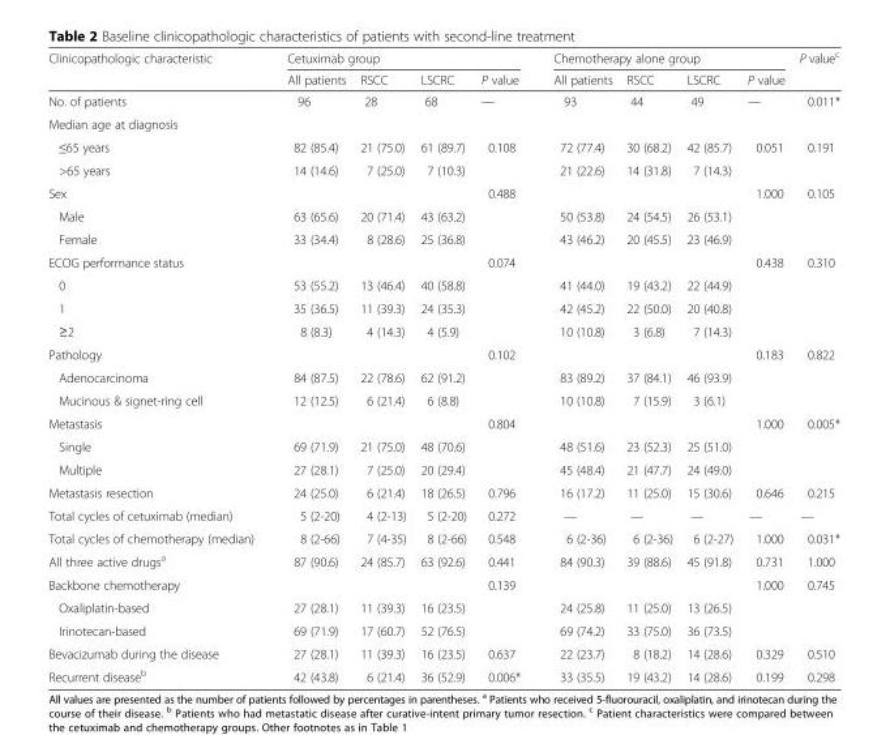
<table><thead><tr><td rowspan="2">Clinicopathologic characteristic</td><td colspan="4">Cetuximab group</td><td colspan="4">Chemotherapy alone group</td><td rowspan="2">P value<sup>c</sup></td></tr><tr><td>All patients</td><td>RSCC</td><td>LSCRC</td><td>P value</td><td>All patients</td><td>RSCC</td><td>LSCRC</td><td>P value</td></tr></thead><tbody><tr><td>No. of patients</td><td>96</td><td>28</td><td>68</td><td>—</td><td>93</td><td>44</td><td>49</td><td>—</td><td>0.011*</td></tr><tr><td colspan="10">Median age at diagnosis</td></tr><tr><td>≤65 years</td><td>82 (85.4)</td><td>21 (75.0)</td><td>61 (89.7)</td><td>0.108</td><td>72 (77.4)</td><td>30 (68.2)</td><td>42 (85.7)</td><td>0.051</td><td>0.191</td></tr><tr><td>&gt;65 years</td><td>14 (14.6)</td><td>7 (25.0)</td><td>7 (10.3)</td><td></td><td>21 (22.6)</td><td>14 (31.8)</td><td>7 (14.3)</td><td></td><td></td></tr><tr><td>Sex</td><td></td><td></td><td></td><td>0.488</td><td></td><td></td><td></td><td>1.000</td><td>0.105</td></tr><tr><td>Male</td><td>63 (65.6)</td><td>20 (71.4)</td><td>43 (63.2)</td><td></td><td>50 (53.8)</td><td>24 (54.5)</td><td>26 (53.1)</td><td></td><td></td></tr><tr><td>Female</td><td>33 (34.4)</td><td>8 (28.6)</td><td>25 (36.8)</td><td></td><td>43 (46.2)</td><td>20 (45.5)</td><td>23 (46.9)</td><td></td><td></td></tr><tr><td>ECOG performance status</td><td></td><td></td><td></td><td>0.074</td><td></td><td></td><td></td><td>0.438</td><td>0.310</td></tr><tr><td>0</td><td>53 (55.2)</td><td>13 (46.4)</td><td>40 (58.8)</td><td></td><td>41 (44.0)</td><td>19 (43.2)</td><td>22 (44.9)</td><td></td><td></td></tr><tr><td>1</td><td>35 (36.5)</td><td>11 (39.3)</td><td>24 (35.3)</td><td></td><td>42 (45.2)</td><td>22 (50.0)</td><td>20 (40.8)</td><td></td><td></td></tr><tr><td>≥2</td><td>8 (8.3)</td><td>4 (14.3)</td><td>4 (5.9)</td><td></td><td>10 (10.8)</td><td>3 (6.8)</td><td>7 (14.3)</td><td></td><td></td></tr><tr><td>Pathology</td><td></td><td></td><td></td><td>0.102</td><td></td><td></td><td></td><td>0.183</td><td>0.822</td></tr><tr><td>Adenocarcinoma</td><td>84 (87.5)</td><td>22 (78.6)</td><td>62 (91.2)</td><td></td><td>83 (89.2)</td><td>37 (84.1)</td><td>46 (93.9)</td><td></td><td></td></tr><tr><td>Mucinous &amp; signet-ring cell</td><td>12 (12.5)</td><td>6 (21.4)</td><td>6 (8.8)</td><td></td><td>10 (10.8)</td><td>7 (15.9)</td><td>3 (6.1)</td><td></td><td></td></tr><tr><td>Metastasis</td><td></td><td></td><td></td><td>0.804</td><td></td><td></td><td></td><td>1.000</td><td>0.005*</td></tr><tr><td>Single</td><td>69 (71.9)</td><td>21 (75.0)</td><td>48 (70.6)</td><td></td><td>48 (51.6)</td><td>23 (52.3)</td><td>25 (51.0)</td><td></td><td></td></tr><tr><td>Multiple</td><td>27 (28.1)</td><td>7 (25.0)</td><td>20 (29.4)</td><td></td><td>45 (48.4)</td><td>21 (47.7)</td><td>24 (49.0)</td><td></td><td></td></tr><tr><td>Metastasis resection</td><td>24 (25.0)</td><td>6 (21.4)</td><td>18 (26.5)</td><td>0.796</td><td>16 (17.2)</td><td>11 (25.0)</td><td>15 (30.6)</td><td>0.646</td><td>0.215</td></tr><tr><td>Total cycles of cetuximab (median)</td><td>5 (2-20)</td><td>4 (2-13)</td><td>5 (2-20)</td><td>0.272</td><td>—</td><td>—</td><td>—</td><td>—</td><td>—</td></tr><tr><td>Total cycles of chemotherapy (median)</td><td>8 (2-66)</td><td>7 (4-35)</td><td>8 (2-66)</td><td>0.548</td><td>6 (2-36)</td><td>6 (2-36)</td><td>6 (2-27)</td><td>1.000</td><td>0.031*</td></tr><tr><td>All three active drugs<sup>a</sup></td><td>87 (90.6)</td><td>24 (85.7)</td><td>63 (92.6)</td><td>0.441</td><td>84 (90.3)</td><td>39 (88.6)</td><td>45 (91.8)</td><td>0.731</td><td>1.000</td></tr><tr><td>Backbone chemotherapy</td><td></td><td></td><td></td><td>0.139</td><td></td><td></td><td></td><td>1.000</td><td>0.745</td></tr><tr><td>Oxaliplatin-based</td><td>27 (28.1)</td><td>11 (39.3)</td><td>16 (23.5)</td><td></td><td>24 (25.8)</td><td>11 (25.0)</td><td>13 (26.5)</td><td></td><td></td></tr><tr><td>Irinotecan-based</td><td>69 (71.9)</td><td>17 (60.7)</td><td>52 (76.5)</td><td></td><td>69 (74.2)</td><td>33 (75.0)</td><td>36 (73.5)</td><td></td><td></td></tr><tr><td>Bevacizumab during the disease</td><td>27 (28.1)</td><td>11 (39.3)</td><td>16 (23.5)</td><td>0.637</td><td>22 (23.7)</td><td>8 (18.2)</td><td>14 (28.6)</td><td>0.329</td><td>0.510</td></tr><tr><td>Recurrent disease<sup>b</sup></td><td>42 (43.8)</td><td>6 (21.4)</td><td>36 (52.9)</td><td>0.006*</td><td>33 (35.5)</td><td>19 (43.2)</td><td>14 (28.6)</td><td>0.199</td><td>0.298</td></tr></tbody></table>